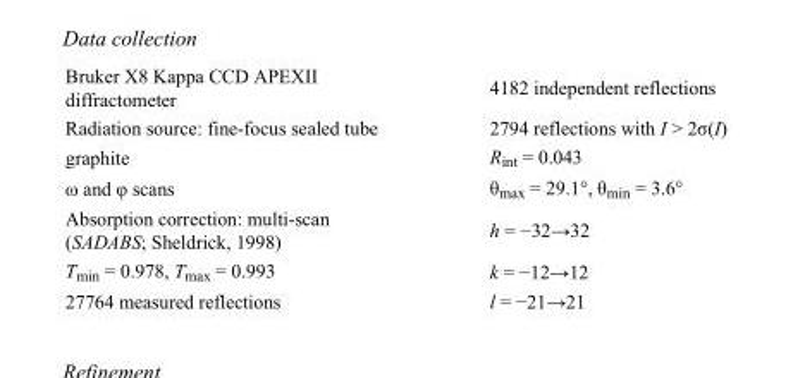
<table><tbody><tr><td>Bruker X8 Kappa CCD APEXII diffractometer</td><td>4182 independent reflections</td></tr><tr><td>Radiation source: fine-focus sealed tube</td><td>2794 reflections with I &gt; 2σ(I)</td></tr><tr><td>graphite</td><td>R<sub>int</sub> = 0.043</td></tr><tr><td>ω and φ scans</td><td>θ<sub>max</sub> = 29.1°, θ<sub>min</sub> = 3.6°</td></tr><tr><td>Absorption correction: multi-scan (SADABS; Sheldrick, 1998)</td><td>h = −32→32</td></tr><tr><td>T<sub>min</sub> = 0.978, T<sub>max</sub> = 0.993</td><td>k = −12→12</td></tr><tr><td>27764 measured reflections</td><td>l = −21→21</td></tr></tbody></table>